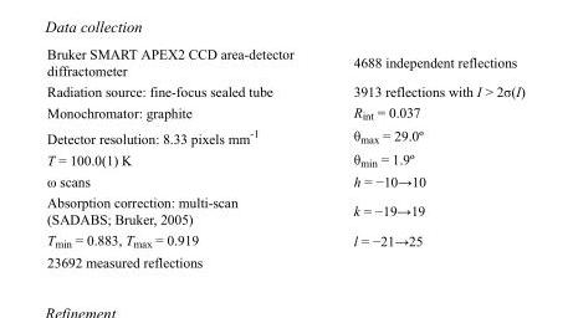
<table><tbody><tr><td>Bruker SMART APEX2 CCD area-detector diffractometer</td><td>4688 independent reflections</td></tr><tr><td>Radiation source: fine-focus sealed tube</td><td>3913 reflections with I &gt; 2σ(I)</td></tr><tr><td>Monochromator: graphite</td><td>R<sub>int</sub> = 0.037</td></tr><tr><td>Detector resolution: 8.33 pixels mm<sup>-1</sup></td><td>θ<sub>max</sub> = 29.0º</td></tr><tr><td>T = 100.0(1) K</td><td>θ<sub>min</sub> = 1.9º</td></tr><tr><td>ω scans</td><td>h = −10→10</td></tr><tr><td>Absorption correction: multi-scan (SADABS; Bruker, 2005)</td><td>k = −19→19</td></tr><tr><td>T<sub>min</sub> = 0.883, T<sub>max</sub> = 0.919</td><td>l = −21→25</td></tr><tr><td>23692 measured reflections</td><td></td></tr></tbody></table>